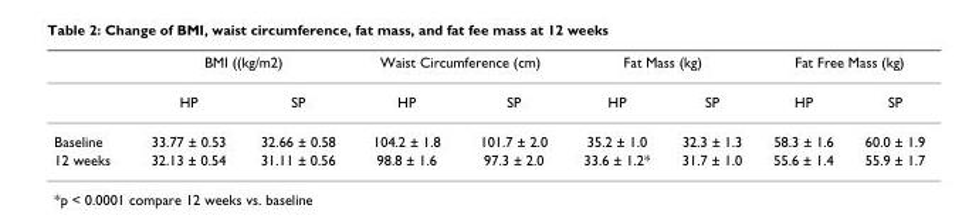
<table><thead><tr><td rowspan="2"></td><td colspan="2">BMI ((kg/m2)</td><td colspan="2">Waist Circumference (cm)</td><td colspan="2">Fat Mass (kg)</td><td colspan="2">Fat Free Mass (kg)</td></tr><tr><td>HP</td><td>SP</td><td>HP</td><td>SP</td><td>HP</td><td>SP</td><td>HP</td><td>SP</td></tr></thead><tbody><tr><td>Baseline</td><td>33.77 ± 0.53</td><td>32.66 ± 0.58</td><td>104.2 ± 1.8</td><td>101.7 ± 2.0</td><td>35.2 ± 1.0</td><td>32.3 ± 1.3</td><td>58.3 ± 1.6</td><td>60.0 ± 1.9</td></tr><tr><td>12 weeks</td><td>32.13 ± 0.54</td><td>31.11 ± 0.56</td><td>98.8 ± 1.6</td><td>97.3 ± 2.0</td><td>33.6 ± 1.2*</td><td>31.7 ± 1.0</td><td>55.6 ± 1.4</td><td>55.9 ± 1.7</td></tr></tbody></table>